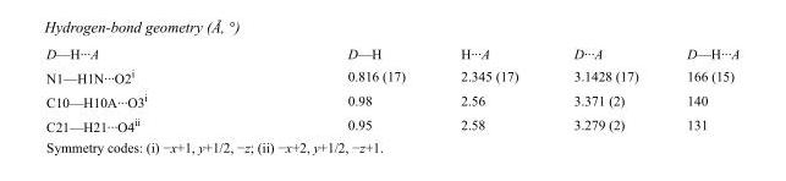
<table><tbody><tr><td>D—H···A</td><td>D—H</td><td>H···A</td><td>D···A</td><td>D—H···A</td></tr><tr><td>N1—H1N···O2<sup>i</sup></td><td>0.816 (17)</td><td>2.345 (17)</td><td>3.1428 (17)</td><td>166 (15)</td></tr><tr><td>C10—H10A···O3<sup>i</sup></td><td>0.98</td><td>2.56</td><td>3.371 (2)</td><td>140</td></tr><tr><td>C21—H21···O4<sup>ii</sup></td><td>0.95</td><td>2.58</td><td>3.279 (2)</td><td>131</td></tr></tbody></table>